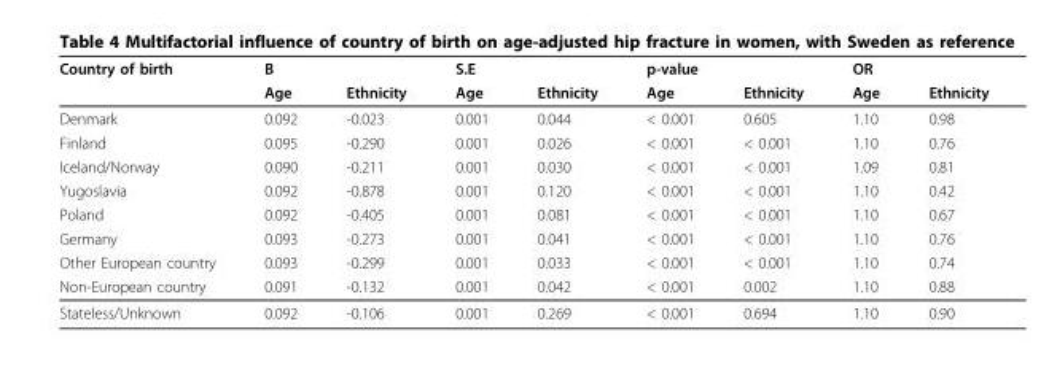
<table><thead><tr><td rowspan="2">Country of birth</td><td colspan="2">B</td><td colspan="2">S.E</td><td colspan="2">p-value</td><td colspan="2">OR</td></tr><tr><td>Age</td><td>Ethnicity</td><td>Age</td><td>Ethnicity</td><td>Age</td><td>Ethnicity</td><td>Age</td><td>Ethnicity</td></tr></thead><tbody><tr><td>Denmark</td><td>0.092</td><td>-0.023</td><td>0.001</td><td>0.044</td><td>&lt; 0.001</td><td>0.605</td><td>1.10</td><td>0.98</td></tr><tr><td>Finland</td><td>0.095</td><td>-0.290</td><td>0.001</td><td>0.026</td><td>&lt; 0.001</td><td>&lt; 0.001</td><td>1.10</td><td>0.76</td></tr><tr><td>Iceland/Norway</td><td>0.090</td><td>-0.211</td><td>0.001</td><td>0.030</td><td>&lt; 0.001</td><td>&lt; 0.001</td><td>1.09</td><td>0.81</td></tr><tr><td>Yugoslavia</td><td>0.092</td><td>-0.878</td><td>0.001</td><td>0.120</td><td>&lt; 0.001</td><td>&lt; 0.001</td><td>1.10</td><td>0.42</td></tr><tr><td>Poland</td><td>0.092</td><td>-0.405</td><td>0.001</td><td>0.081</td><td>&lt; 0.001</td><td>&lt; 0.001</td><td>1.10</td><td>0.67</td></tr><tr><td>Germany</td><td>0.093</td><td>-0.273</td><td>0.001</td><td>0.041</td><td>&lt; 0.001</td><td>&lt; 0.001</td><td>1.10</td><td>0.76</td></tr><tr><td>Other European country</td><td>0.093</td><td>-0.299</td><td>0.001</td><td>0.033</td><td>&lt; 0.001</td><td>&lt; 0.001</td><td>1.10</td><td>0.74</td></tr><tr><td>Non-European country</td><td>0.091</td><td>-0.132</td><td>0.001</td><td>0.042</td><td>&lt; 0.001</td><td>0.002</td><td>1.10</td><td>0.88</td></tr><tr><td>Stateless/Unknown</td><td>0.092</td><td>-0.106</td><td>0.001</td><td>0.269</td><td>&lt; 0.001</td><td>0.694</td><td>1.10</td><td>0.90</td></tr></tbody></table>